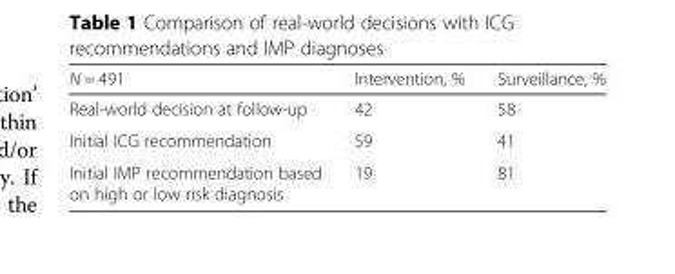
<table><thead><tr><td>N = 491</td><td>Intervention, %</td><td>Surveillance, %</td></tr></thead><tbody><tr><td>Real-world decision at follow-up</td><td>42</td><td>58</td></tr><tr><td>Initial ICG recommendation</td><td>59</td><td>41</td></tr><tr><td>Initial IMP recommendation based on high or low risk diagnosis</td><td>19</td><td>81</td></tr></tbody></table>